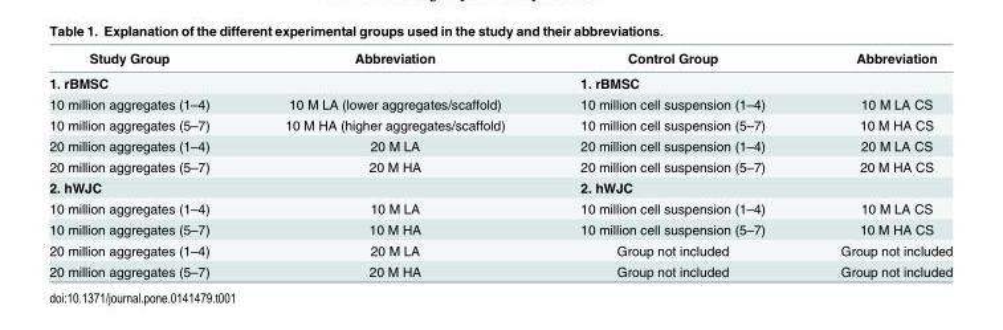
<table><thead><tr><td>Study Group</td><td>Abbreviation</td><td>Control Group</td><td>Abbreviation</td></tr></thead><tbody><tr><td>1. rBMSC</td><td></td><td>1. rBMSC</td><td></td></tr><tr><td>10 million aggregates (1–4)</td><td>10 M LA (lower aggregates/scaffold)</td><td>10 million cell suspension (1–4)</td><td>10 M LA CS</td></tr><tr><td>10 million aggregates (5–7)</td><td>10 M HA (higher aggregates/scaffold)</td><td>10 million cell suspension (5–7)</td><td>10 M HA CS</td></tr><tr><td>20 million aggregates (1–4)</td><td>20 M LA</td><td>20 million cell suspension (1–4)</td><td>20 M LA CS</td></tr><tr><td>20 million aggregates (5–7)</td><td>20 M HA</td><td>20 million cell suspension (5–7)</td><td>20 M HA CS</td></tr><tr><td>2. hWJC</td><td></td><td>2. hWJC</td><td></td></tr><tr><td>10 million aggregates (1–4)</td><td>10 M LA</td><td>10 million cell suspension (1–4)</td><td>10 M LA CS</td></tr><tr><td>10 million aggregates (5–7)</td><td>10 M HA</td><td>10 million cell suspension (5–7)</td><td>10 M HA CS</td></tr><tr><td>20 million aggregates (1–4)</td><td>20 M LA</td><td>Group not included</td><td>Group not included</td></tr><tr><td>20 million aggregates (5–7)</td><td>20 M HA</td><td>Group not included</td><td>Group not included</td></tr></tbody></table>